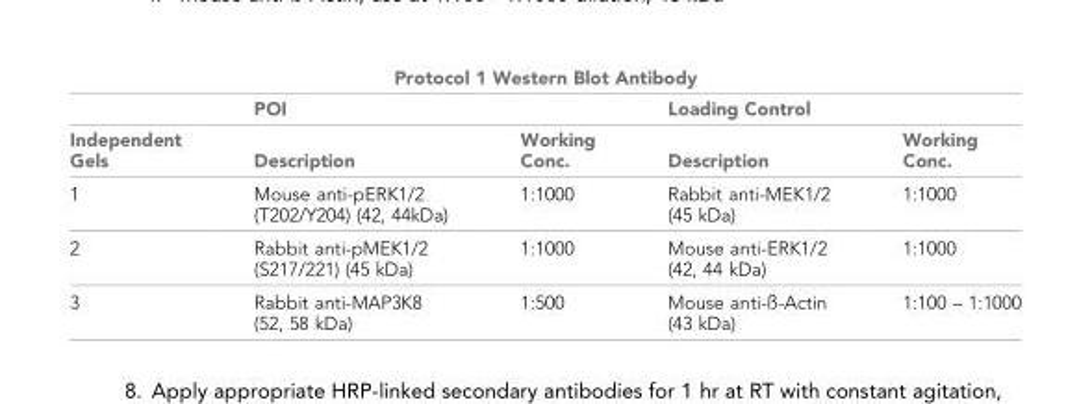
<table><thead><tr><td colspan="5">Protocol 1 Western Blot Antibody</td></tr><tr><td rowspan="2">Independent Gels</td><td colspan="2">POI</td><td colspan="2">Loading Control</td></tr><tr><td>Description</td><td>Working Conc.</td><td>Description</td><td>Working Conc.</td></tr></thead><tbody><tr><td>1</td><td>Mouse anti-pERK1/2 (T202/Y204) (42, 44kDa)</td><td>1:1000</td><td>Rabbit anti-MEK1/2 (45 kDa)</td><td>1:1000</td></tr><tr><td>2</td><td>Rabbit anti-pMEK1/2 (S217/221) (45 kDa)</td><td>1:1000</td><td>Mouse anti-ERK1/2 (42, 44 kDa)</td><td>1:1000</td></tr><tr><td>3</td><td>Rabbit anti-MAP3K8 (52, 58 kDa)</td><td>1:500</td><td>Mouse anti-ß-Actin (43 kDa)</td><td>1:100 – 1:1000</td></tr></tbody></table>